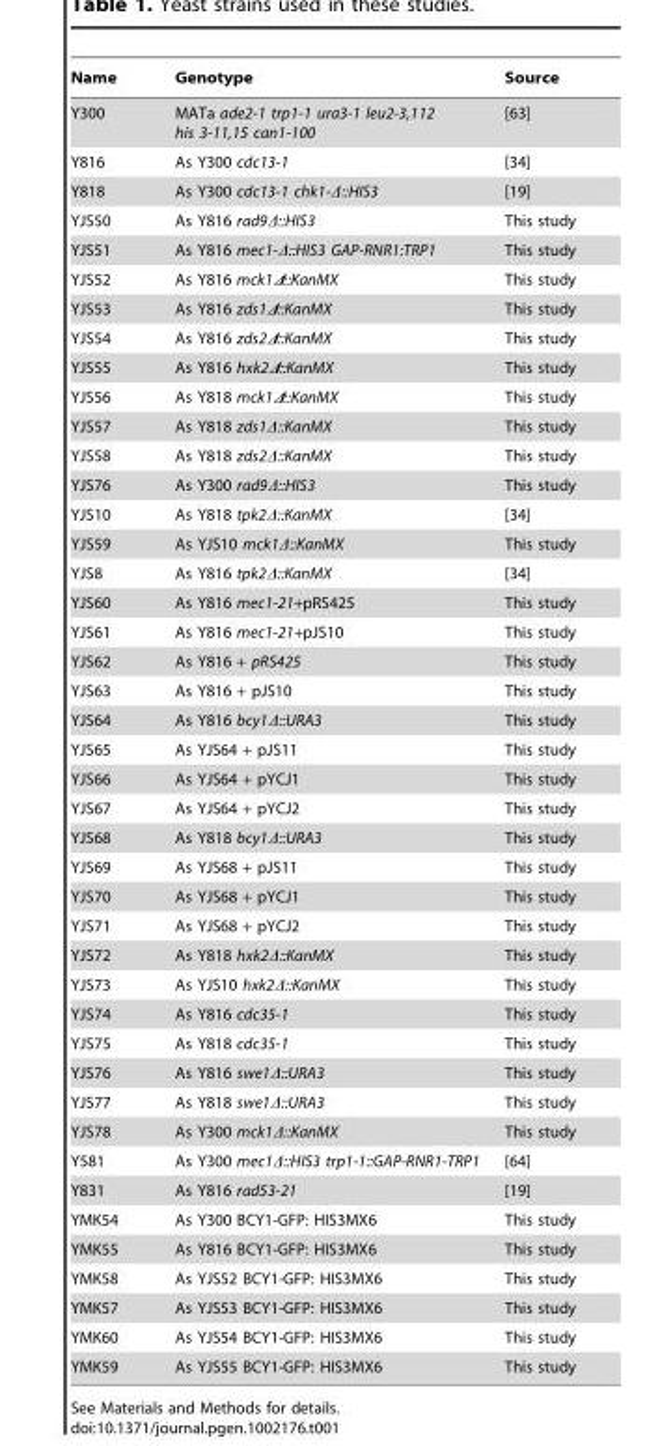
<table><thead><tr><td>Name</td><td>Genotype</td><td>Source</td></tr></thead><tbody><tr><td>Y300</td><td>MATa ade2-1 trp1-1 ura3-1 leu2-3,112 his 3-11,15 can1-100</td><td>[63]</td></tr><tr><td>Y816</td><td>As Y300 cdc13-1</td><td>[34]</td></tr><tr><td>Y818</td><td>As Y300 cdc13-1 chk1-Δ::HIS3</td><td>[19]</td></tr><tr><td>YJS50</td><td>As Y816 rad9Δ::HIS3</td><td>This study</td></tr><tr><td>YJS51</td><td>As Y816 mec1-Δ::HIS3 GAP-RNR1:TRP1</td><td>This study</td></tr><tr><td>YJS52</td><td>As Y816 mck1Δ::KanMX</td><td>This study</td></tr><tr><td>YJS53</td><td>As Y816 zds1Δ::KanMX</td><td>This study</td></tr><tr><td>YJS54</td><td>As Y816 zds2Δ::KanMX</td><td>This study</td></tr><tr><td>YJS55</td><td>As Y816 hxk2Δ::KanMX</td><td>This study</td></tr><tr><td>YJS56</td><td>As Y818 mck1Δ::KanMX</td><td>This study</td></tr><tr><td>YJS57</td><td>As Y818 zds1Δ::KanMX</td><td>This study</td></tr><tr><td>YJS58</td><td>As Y818 zds2Δ::KanMX</td><td>This study</td></tr><tr><td>YJS76</td><td>As Y300 rad9Δ::HIS3</td><td>This study</td></tr><tr><td>YJS10</td><td>As Y818 tpk2Δ::KanMX</td><td>[34]</td></tr><tr><td>YJS59</td><td>As YJS10 mck1Δ::KanMX</td><td>This study</td></tr><tr><td>YJS8</td><td>As Y816 tpk2Δ::KanMX</td><td>[34]</td></tr><tr><td>YJS60</td><td>As Y816 mec1-21+pRS425</td><td>This study</td></tr><tr><td>YJS61</td><td>As Y816 mec1-21+pJS10</td><td>This study</td></tr><tr><td>YJS62</td><td>As Y816 + pRS425</td><td>This study</td></tr><tr><td>YJS63</td><td>As Y816 + pJS10</td><td>This study</td></tr><tr><td>YJS64</td><td>As Y816 bcy1Δ::URA3</td><td>This study</td></tr><tr><td>YJS65</td><td>As YJS64 + pJS11</td><td>This study</td></tr><tr><td>YJS66</td><td>As YJS64 + pYCJ1</td><td>This study</td></tr><tr><td>YJS67</td><td>As YJS64 + pYCJ2</td><td>This study</td></tr><tr><td>YJS68</td><td>As Y818 bcy1Δ::URA3</td><td>This study</td></tr><tr><td>YJS69</td><td>As YJS68 + pJS11</td><td>This study</td></tr><tr><td>YJS70</td><td>As YJS68 + pYCJ1</td><td>This study</td></tr><tr><td>YJS71</td><td>As YJS68 + pYCJ2</td><td>This study</td></tr><tr><td>YJS72</td><td>As Y818 hxk2Δ::KanMX</td><td>This study</td></tr><tr><td>YJS73</td><td>As YJS10 hxk2Δ::KanMX</td><td>This study</td></tr><tr><td>YJS74</td><td>As Y816 cdc35-1</td><td>This study</td></tr><tr><td>YJS75</td><td>As Y818 cdc35-1</td><td>This study</td></tr><tr><td>YJS76</td><td>As Y816 swe1Δ::URA3</td><td>This study</td></tr><tr><td>YJS77</td><td>As Y818 swe1Δ::URA3</td><td>This study</td></tr><tr><td>YJS78</td><td>As Y300 mck1Δ::KanMX</td><td>This study</td></tr><tr><td>Y581</td><td>As Y300 mec1Δ::HIS3 trp1-1::GAP-RNR1-TRP1</td><td>[64]</td></tr><tr><td>Y831</td><td>As Y816 rad53-21</td><td>[19]</td></tr><tr><td>YMK54</td><td>As Y300 BCY1-GFP: HIS3MX6</td><td>This study</td></tr><tr><td>YMK55</td><td>As Y816 BCY1-GFP: HIS3MX6</td><td>This study</td></tr><tr><td>YMK58</td><td>As YJS52 BCY1-GFP: HIS3MX6</td><td>This study</td></tr><tr><td>YMK57</td><td>As YJS53 BCY1-GFP: HIS3MX6</td><td>This study</td></tr><tr><td>YMK60</td><td>As YJS54 BCY1-GFP: HIS3MX6</td><td>This study</td></tr><tr><td>YMK59</td><td>As YJS55 BCY1-GFP: HIS3MX6</td><td>This study</td></tr></tbody></table>